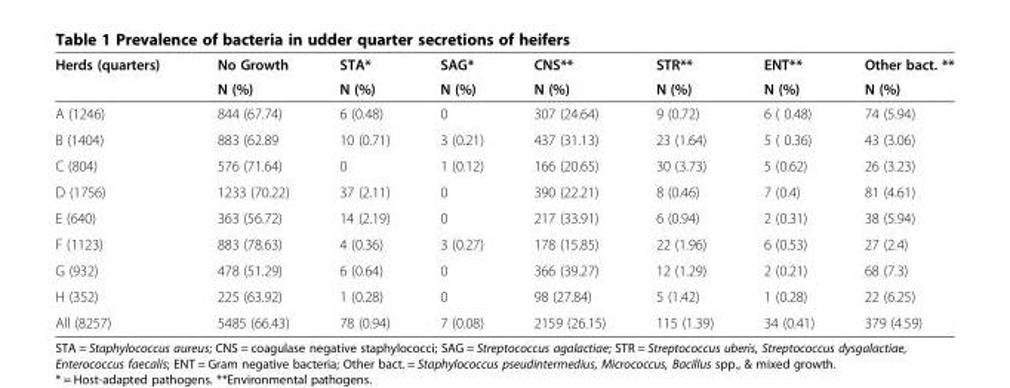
<table><thead><tr><td rowspan="2">Herds (quarters)</td><td rowspan="2">No Growth N (%)</td><td rowspan="2">STA* N (%)</td><td rowspan="2">SAG* N (%)</td><td rowspan="2">CNS** N (%)</td><td rowspan="2">STR** N (%)</td><td rowspan="2">ENT** N (%)</td><td rowspan="2">Other bact. ** N (%)</td></tr><tr></tr></thead><tbody><tr><td>A (1246)</td><td>844 (67.74)</td><td>6 (0.48)</td><td>0</td><td>307 (24.64)</td><td>9 (0.72)</td><td>6 ( 0.48)</td><td>74 (5.94)</td></tr><tr><td>B (1404)</td><td>883 (62.89</td><td>10 (0.71)</td><td>3 (0.21)</td><td>437 (31.13)</td><td>23 (1.64)</td><td>5 ( 0.36)</td><td>43 (3.06)</td></tr><tr><td>C (804)</td><td>576 (71.64)</td><td>0</td><td>1 (0.12)</td><td>166 (20.65)</td><td>30 (3.73)</td><td>5 (0.62)</td><td>26 (3.23)</td></tr><tr><td>D (1756)</td><td>1233 (70.22)</td><td>37 (2.11)</td><td>0</td><td>390 (22.21)</td><td>8 (0.46)</td><td>7 (0.4)</td><td>81 (4.61)</td></tr><tr><td>E (640)</td><td>363 (56.72)</td><td>14 (2.19)</td><td>0</td><td>217 (33.91)</td><td>6 (0.94)</td><td>2 (0.31)</td><td>38 (5.94)</td></tr><tr><td>F (1123)</td><td>883 (78.63)</td><td>4 (0.36)</td><td>3 (0.27)</td><td>178 (15.85)</td><td>22 (1.96)</td><td>6 (0.53)</td><td>27 (2.4)</td></tr><tr><td>G (932)</td><td>478 (51.29)</td><td>6 (0.64)</td><td>0</td><td>366 (39.27)</td><td>12 (1.29)</td><td>2 (0.21)</td><td>68 (7.3)</td></tr><tr><td>H (352)</td><td>225 (63.92)</td><td>1 (0.28)</td><td>0</td><td>98 (27.84)</td><td>5 (1.42)</td><td>1 (0.28)</td><td>22 (6.25)</td></tr><tr><td>All (8257)</td><td>5485 (66.43)</td><td>78 (0.94)</td><td>7 (0.08)</td><td>2159 (26.15)</td><td>115 (1.39)</td><td>34 (0.41)</td><td>379 (4.59)</td></tr></tbody></table>